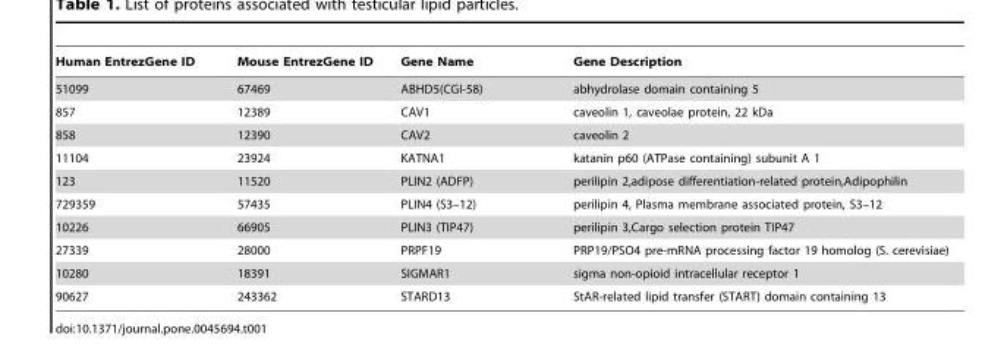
<table><thead><tr><td>Human EntrezGene ID</td><td>Mouse EntrezGene ID</td><td>Gene Name</td><td>Gene Description</td></tr></thead><tbody><tr><td>51099</td><td>67469</td><td>ABHD5(CGI-58)</td><td>abhydrolase domain containing 5</td></tr><tr><td>857</td><td>12389</td><td>CAV1</td><td>caveolin 1, caveolae protein, 22 kDa</td></tr><tr><td>858</td><td>12390</td><td>CAV2</td><td>caveolin 2</td></tr><tr><td>11104</td><td>23924</td><td>KATNA1</td><td>katanin p60 (ATPase containing) subunit A 1</td></tr><tr><td>123</td><td>11520</td><td>PLIN2 (ADFP)</td><td>perilipin 2,adipose differentiation-related protein,Adipophilin</td></tr><tr><td>729359</td><td>57435</td><td>PLIN4 (S3–12)</td><td>perilipin 4, Plasma membrane associated protein, S3–12</td></tr><tr><td>10226</td><td>66905</td><td>PLIN3 (TIP47)</td><td>perilipin 3,Cargo selection protein TIP47</td></tr><tr><td>27339</td><td>28000</td><td>PRPF19</td><td>PRP19/PSO4 pre-mRNA processing factor 19 homolog (S. cerevisiae)</td></tr><tr><td>10280</td><td>18391</td><td>SIGMAR1</td><td>sigma non-opioid intracellular receptor 1</td></tr><tr><td>90627</td><td>243362</td><td>STARD13</td><td>StAR-related lipid transfer (START) domain containing 13</td></tr></tbody></table>